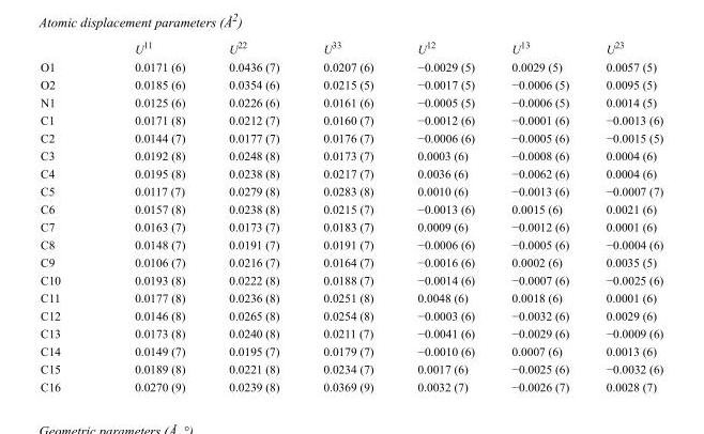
<table><thead><tr><td></td><td>U<sup>11</sup></td><td>U<sup>22</sup></td><td>U<sup>33</sup></td><td>U<sup>12</sup></td><td>U<sup>13</sup></td><td>U<sup>23</sup></td></tr></thead><tbody><tr><td>O1</td><td>0.0171 (6)</td><td>0.0436 (7)</td><td>0.0207 (6)</td><td>−0.0029 (5)</td><td>0.0029 (5)</td><td>0.0057 (5)</td></tr><tr><td>O2</td><td>0.0185 (6)</td><td>0.0354 (6)</td><td>0.0215 (5)</td><td>−0.0017 (5)</td><td>−0.0006 (5)</td><td>0.0095 (5)</td></tr><tr><td>N1</td><td>0.0125 (6)</td><td>0.0226 (6)</td><td>0.0161 (6)</td><td>−0.0005 (5)</td><td>−0.0006 (5)</td><td>0.0014 (5)</td></tr><tr><td>C1</td><td>0.0171 (8)</td><td>0.0212 (7)</td><td>0.0160 (7)</td><td>−0.0012 (6)</td><td>−0.0001 (6)</td><td>−0.0013 (6)</td></tr><tr><td>C2</td><td>0.0144 (7)</td><td>0.0177 (7)</td><td>0.0176 (7)</td><td>−0.0006 (6)</td><td>−0.0005 (6)</td><td>−0.0015 (5)</td></tr><tr><td>C3</td><td>0.0192 (8)</td><td>0.0248 (8)</td><td>0.0173 (7)</td><td>0.0003 (6)</td><td>−0.0008 (6)</td><td>0.0004 (6)</td></tr><tr><td>C4</td><td>0.0195 (8)</td><td>0.0238 (8)</td><td>0.0217 (7)</td><td>0.0036 (6)</td><td>−0.0062 (6)</td><td>0.0004 (6)</td></tr><tr><td>C5</td><td>0.0117 (7)</td><td>0.0279 (8)</td><td>0.0283 (8)</td><td>0.0010 (6)</td><td>−0.0013 (6)</td><td>−0.0007 (7)</td></tr><tr><td>C6</td><td>0.0157 (8)</td><td>0.0238 (8)</td><td>0.0215 (7)</td><td>−0.0013 (6)</td><td>0.0015 (6)</td><td>0.0021 (6)</td></tr><tr><td>C7</td><td>0.0163 (7)</td><td>0.0173 (7)</td><td>0.0183 (7)</td><td>0.0009 (6)</td><td>−0.0012 (6)</td><td>0.0001 (6)</td></tr><tr><td>C8</td><td>0.0148 (7)</td><td>0.0191 (7)</td><td>0.0191 (7)</td><td>−0.0006 (6)</td><td>−0.0005 (6)</td><td>−0.0004 (6)</td></tr><tr><td>C9</td><td>0.0106 (7)</td><td>0.0216 (7)</td><td>0.0164 (7)</td><td>−0.0016 (6)</td><td>0.0002 (6)</td><td>0.0035 (5)</td></tr><tr><td>C10</td><td>0.0193 (8)</td><td>0.0222 (8)</td><td>0.0188 (7)</td><td>−0.0014 (6)</td><td>−0.0007 (6)</td><td>−0.0025 (6)</td></tr><tr><td>C11</td><td>0.0177 (8)</td><td>0.0236 (8)</td><td>0.0251 (8)</td><td>0.0048 (6)</td><td>0.0018 (6)</td><td>0.0001 (6)</td></tr><tr><td>C12</td><td>0.0146 (8)</td><td>0.0265 (8)</td><td>0.0254 (8)</td><td>−0.0003 (6)</td><td>−0.0032 (6)</td><td>0.0029 (6)</td></tr><tr><td>C13</td><td>0.0173 (8)</td><td>0.0240 (8)</td><td>0.0211 (7)</td><td>−0.0041 (6)</td><td>−0.0029 (6)</td><td>−0.0009 (6)</td></tr><tr><td>C14</td><td>0.0149 (7)</td><td>0.0195 (7)</td><td>0.0179 (7)</td><td>−0.0010 (6)</td><td>0.0007 (6)</td><td>0.0013 (6)</td></tr><tr><td>C15</td><td>0.0189 (8)</td><td>0.0221 (8)</td><td>0.0234 (7)</td><td>0.0017 (6)</td><td>−0.0025 (6)</td><td>−0.0032 (6)</td></tr><tr><td>C16</td><td>0.0270 (9)</td><td>0.0239 (8)</td><td>0.0369 (9)</td><td>0.0032 (7)</td><td>−0.0026 (7)</td><td>0.0028 (7)</td></tr></tbody></table>